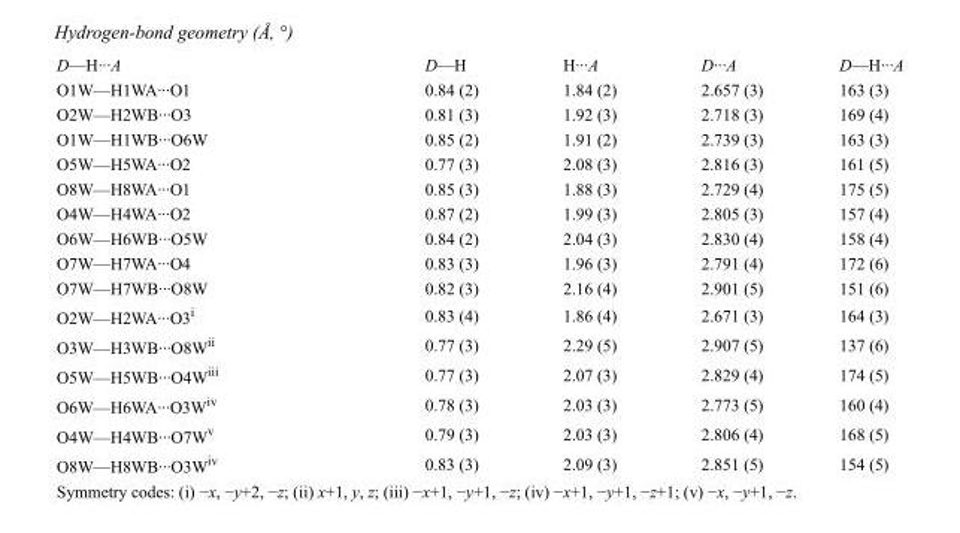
<table><tbody><tr><td>D—H···A</td><td>D—H</td><td>H···A</td><td>D···A</td><td>D—H···A</td></tr><tr><td>O1W—H1WA···O1</td><td>0.84 (2)</td><td>1.84 (2)</td><td>2.657 (3)</td><td>163 (3)</td></tr><tr><td>O2W—H2WB···O3</td><td>0.81 (3)</td><td>1.92 (3)</td><td>2.718 (3)</td><td>169 (4)</td></tr><tr><td>O1W—H1WB···O6W</td><td>0.85 (2)</td><td>1.91 (2)</td><td>2.739 (3)</td><td>163 (3)</td></tr><tr><td>O5W—H5WA···O2</td><td>0.77 (3)</td><td>2.08 (3)</td><td>2.816 (3)</td><td>161 (5)</td></tr><tr><td>O8W—H8WA···O1</td><td>0.85 (3)</td><td>1.88 (3)</td><td>2.729 (4)</td><td>175 (5)</td></tr><tr><td>O4W—H4WA···O2</td><td>0.87 (2)</td><td>1.99 (3)</td><td>2.805 (3)</td><td>157 (4)</td></tr><tr><td>O6W—H6WB···O5W</td><td>0.84 (2)</td><td>2.04 (3)</td><td>2.830 (4)</td><td>158 (4)</td></tr><tr><td>O7W—H7WA···O4</td><td>0.83 (3)</td><td>1.96 (3)</td><td>2.791 (4)</td><td>172 (6)</td></tr><tr><td>O7W—H7WB···O8W</td><td>0.82 (3)</td><td>2.16 (4)</td><td>2.901 (5)</td><td>151 (6)</td></tr><tr><td>O2W—H2WA···O3<sup>i</sup></td><td>0.83 (4)</td><td>1.86 (4)</td><td>2.671 (3)</td><td>164 (3)</td></tr><tr><td>O3W—H3WB···O8W<sup>ii</sup></td><td>0.77 (3)</td><td>2.29 (5)</td><td>2.907 (5)</td><td>137 (6)</td></tr><tr><td>O5W—H5WB···O4W<sup>iii</sup></td><td>0.77 (3)</td><td>2.07 (3)</td><td>2.829 (4)</td><td>174 (5)</td></tr><tr><td>O6W—H6WA···O3W<sup>iv</sup></td><td>0.78 (3)</td><td>2.03 (3)</td><td>2.773 (5)</td><td>160 (4)</td></tr><tr><td>O4W—H4WB···O7W<sup>v</sup></td><td>0.79 (3)</td><td>2.03 (3)</td><td>2.806 (4)</td><td>168 (5)</td></tr><tr><td>O8W—H8WB···O3W<sup>iv</sup></td><td>0.83 (3)</td><td>2.09 (3)</td><td>2.851 (5)</td><td>154 (5)</td></tr></tbody></table>